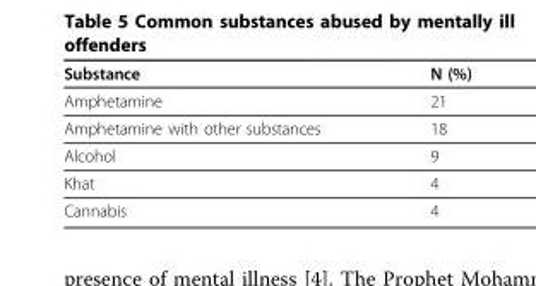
<table><thead><tr><td>Substance</td><td>N (%)</td></tr></thead><tbody><tr><td>Amphetamine</td><td>21</td></tr><tr><td>Amphetamine with other substances</td><td>18</td></tr><tr><td>Alcohol</td><td>9</td></tr><tr><td>Khat</td><td>4</td></tr><tr><td>Cannabis</td><td>4</td></tr></tbody></table>